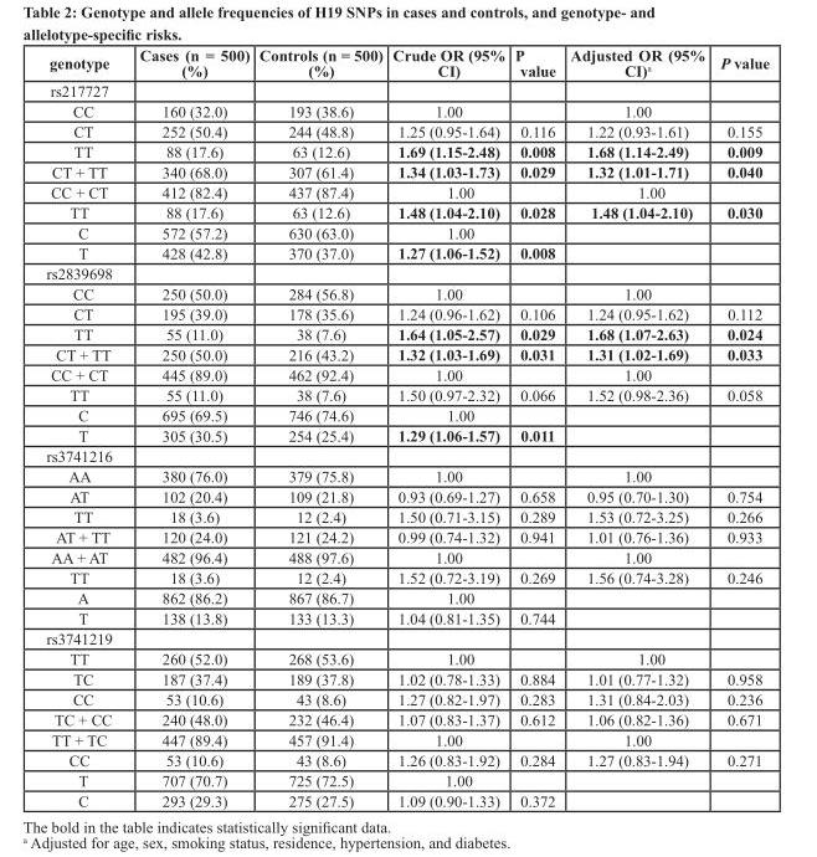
<table><thead><tr><td>genotype</td><td>Cases (n = 500) (%)</td><td>Controls (n = 500) (%)</td><td>Crude OR (95% CI)</td><td>P value</td><td>Adjusted OR (95% CI)<sup>a</sup></td><td>P value</td></tr></thead><tbody><tr><td colspan="7">rs217727</td></tr><tr><td>CC</td><td>160 (32.0)</td><td>193 (38.6)</td><td>1.00</td><td></td><td>1.00</td><td></td></tr><tr><td>CT</td><td>252 (50.4)</td><td>244 (48.8)</td><td>1.25 (0.95-1.64)</td><td>0.116</td><td>1.22 (0.93-1.61)</td><td>0.155</td></tr><tr><td>TT</td><td>88 (17.6)</td><td>63 (12.6)</td><td>1.69 (1.15-2.48)</td><td>0.008</td><td>1.68 (1.14-2.49)</td><td>0.009</td></tr><tr><td>CT + TT</td><td>340 (68.0)</td><td>307 (61.4)</td><td>1.34 (1.03-1.73)</td><td>0.029</td><td>1.32 (1.01-1.71)</td><td>0.040</td></tr><tr><td>CC + CT</td><td>412 (82.4)</td><td>437 (87.4)</td><td>1.00</td><td></td><td>1.00</td><td></td></tr><tr><td>TT</td><td>88 (17.6)</td><td>63 (12.6)</td><td>1.48 (1.04-2.10)</td><td>0.028</td><td>1.48 (1.04-2.10)</td><td>0.030</td></tr><tr><td>C</td><td>572 (57.2)</td><td>630 (63.0)</td><td>1.00</td><td></td><td></td><td></td></tr><tr><td>T</td><td>428 (42.8)</td><td>370 (37.0)</td><td>1.27 (1.06-1.52)</td><td>0.008</td><td></td><td></td></tr><tr><td colspan="7">rs2839698</td></tr><tr><td>CC</td><td>250 (50.0)</td><td>284 (56.8)</td><td>1.00</td><td></td><td>1.00</td><td></td></tr><tr><td>CT</td><td>195 (39.0)</td><td>178 (35.6)</td><td>1.24 (0.96-1.62)</td><td>0.106</td><td>1.24 (0.95-1.62)</td><td>0.112</td></tr><tr><td>TT</td><td>55 (11.0)</td><td>38 (7.6)</td><td>1.64 (1.05-2.57)</td><td>0.029</td><td>1.68 (1.07-2.63)</td><td>0.024</td></tr><tr><td>CT + TT</td><td>250 (50.0)</td><td>216 (43.2)</td><td>1.32 (1.03-1.69)</td><td>0.031</td><td>1.31 (1.02-1.69)</td><td>0.033</td></tr><tr><td>CC + CT</td><td>445 (89.0)</td><td>462 (92.4)</td><td>1.00</td><td></td><td>1.00</td><td></td></tr><tr><td>TT</td><td>55 (11.0)</td><td>38 (7.6)</td><td>1.50 (0.97-2.32)</td><td>0.066</td><td>1.52 (0.98-2.36)</td><td>0.058</td></tr><tr><td>C</td><td>695 (69.5)</td><td>746 (74.6)</td><td>1.00</td><td></td><td></td><td></td></tr><tr><td>T</td><td>305 (30.5)</td><td>254 (25.4)</td><td>1.29 (1.06-1.57)</td><td>0.011</td><td></td><td></td></tr><tr><td colspan="7">rs3741216</td></tr><tr><td>AA</td><td>380 (76.0)</td><td>379 (75.8)</td><td>1.00</td><td></td><td>1.00</td><td></td></tr><tr><td>AT</td><td>102 (20.4)</td><td>109 (21.8)</td><td>0.93 (0.69-1.27)</td><td>0.658</td><td>0.95 (0.70-1.30)</td><td>0.754</td></tr><tr><td>TT</td><td>18 (3.6)</td><td>12 (2.4)</td><td>1.50 (0.71-3.15)</td><td>0.289</td><td>1.53 (0.72-3.25)</td><td>0.266</td></tr><tr><td>AT + TT</td><td>120 (24.0)</td><td>121 (24.2)</td><td>0.99 (0.74-1.32)</td><td>0.941</td><td>1.01 (0.76-1.36)</td><td>0.933</td></tr><tr><td>AA + AT</td><td>482 (96.4)</td><td>488 (97.6)</td><td>1.00</td><td></td><td>1.00</td><td></td></tr><tr><td>TT</td><td>18 (3.6)</td><td>12 (2.4)</td><td>1.52 (0.72-3.19)</td><td>0.269</td><td>1.56 (0.74-3.28)</td><td>0.246</td></tr><tr><td>A</td><td>862 (86.2)</td><td>867 (86.7)</td><td>1.00</td><td></td><td></td><td></td></tr><tr><td>T</td><td>138 (13.8)</td><td>133 (13.3)</td><td>1.04 (0.81-1.35)</td><td>0.744</td><td></td><td></td></tr><tr><td colspan="7">rs3741219</td></tr><tr><td>TT</td><td>260 (52.0)</td><td>268 (53.6)</td><td>1.00</td><td></td><td>1.00</td><td></td></tr><tr><td>TC</td><td>187 (37.4)</td><td>189 (37.8)</td><td>1.02 (0.78-1.33)</td><td>0.884</td><td>1.01 (0.77-1.32)</td><td>0.958</td></tr><tr><td>CC</td><td>53 (10.6)</td><td>43 (8.6)</td><td>1.27 (0.82-1.97)</td><td>0.283</td><td>1.31 (0.84-2.03)</td><td>0.236</td></tr><tr><td>TC + CC</td><td>240 (48.0)</td><td>232 (46.4)</td><td>1.07 (0.83-1.37)</td><td>0.612</td><td>1.06 (0.82-1.36)</td><td>0.671</td></tr><tr><td>TT + TC</td><td>447 (89.4)</td><td>457 (91.4)</td><td>1.00</td><td></td><td>1.00</td><td></td></tr><tr><td>CC</td><td>53 (10.6)</td><td>43 (8.6)</td><td>1.26 (0.83-1.92)</td><td>0.284</td><td>1.27 (0.83-1.94)</td><td>0.271</td></tr><tr><td>T</td><td>707 (70.7)</td><td>725 (72.5)</td><td>1.00</td><td></td><td></td><td></td></tr><tr><td>C</td><td>293 (29.3)</td><td>275 (27.5)</td><td>1.09 (0.90-1.33)</td><td>0.372</td><td></td><td></td></tr></tbody></table>